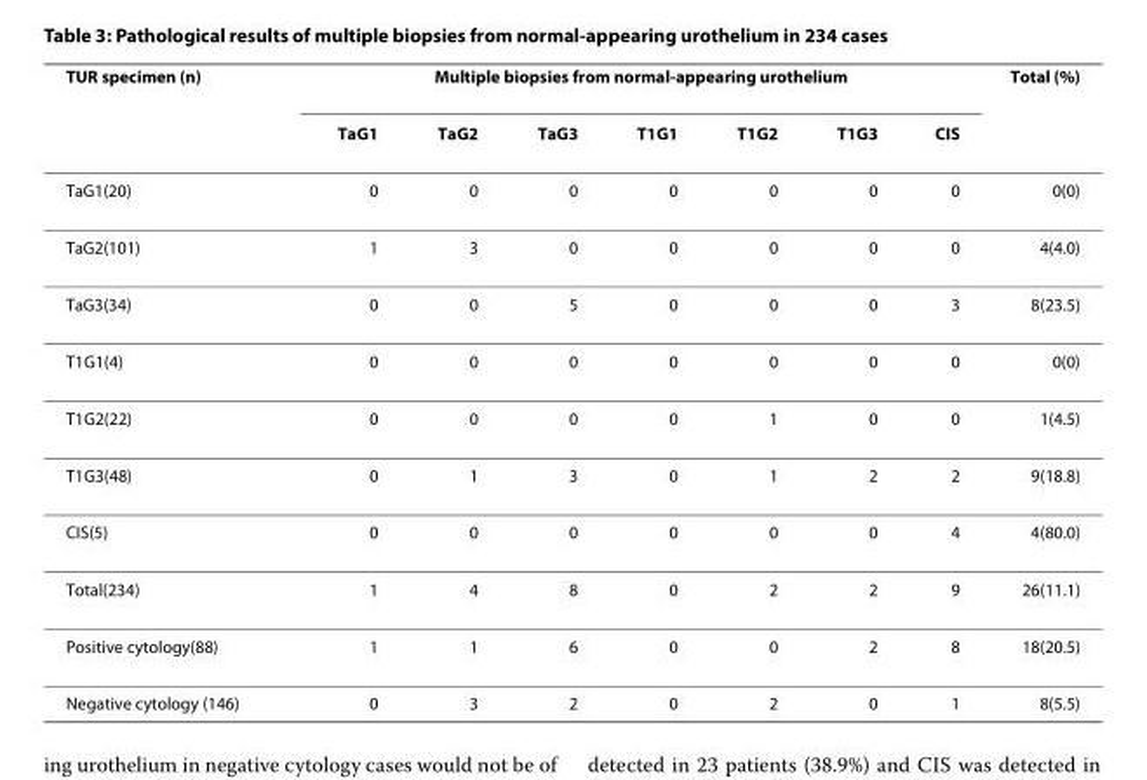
<table><thead><tr><td rowspan="2">TUR specimen (n)</td><td colspan="7">Multiple biopsies from normal-appearing urothelium</td><td rowspan="2">Total (%)</td></tr><tr><td>TaG1</td><td>TaG2</td><td>TaG3</td><td>T1G1</td><td>T1G2</td><td>T1G3</td><td>CIS</td></tr></thead><tbody><tr><td>TaG1(20)</td><td>0</td><td>0</td><td>0</td><td>0</td><td>0</td><td>0</td><td>0</td><td>0(0)</td></tr><tr><td>TaG2(101)</td><td>1</td><td>3</td><td>0</td><td>0</td><td>0</td><td>0</td><td>0</td><td>4(4.0)</td></tr><tr><td>TaG3(34)</td><td>0</td><td>0</td><td>5</td><td>0</td><td>0</td><td>0</td><td>3</td><td>8(23.5)</td></tr><tr><td>T1G1(4)</td><td>0</td><td>0</td><td>0</td><td>0</td><td>0</td><td>0</td><td>0</td><td>0(0)</td></tr><tr><td>T1G2(22)</td><td>0</td><td>0</td><td>0</td><td>0</td><td>1</td><td>0</td><td>0</td><td>1(4.5)</td></tr><tr><td>T1G3(48)</td><td>0</td><td>1</td><td>3</td><td>0</td><td>1</td><td>2</td><td>2</td><td>9(18.8)</td></tr><tr><td>CIS(5)</td><td>0</td><td>0</td><td>0</td><td>0</td><td>0</td><td>0</td><td>4</td><td>4(80.0)</td></tr><tr><td>Total(234)</td><td>1</td><td>4</td><td>8</td><td>0</td><td>2</td><td>2</td><td>9</td><td>26(11.1)</td></tr><tr><td>Positive cytology(88)</td><td>1</td><td>1</td><td>6</td><td>0</td><td>0</td><td>2</td><td>8</td><td>18(20.5)</td></tr><tr><td>Negative cytology (146)</td><td>0</td><td>3</td><td>2</td><td>0</td><td>2</td><td>0</td><td>1</td><td>8(5.5)</td></tr></tbody></table>